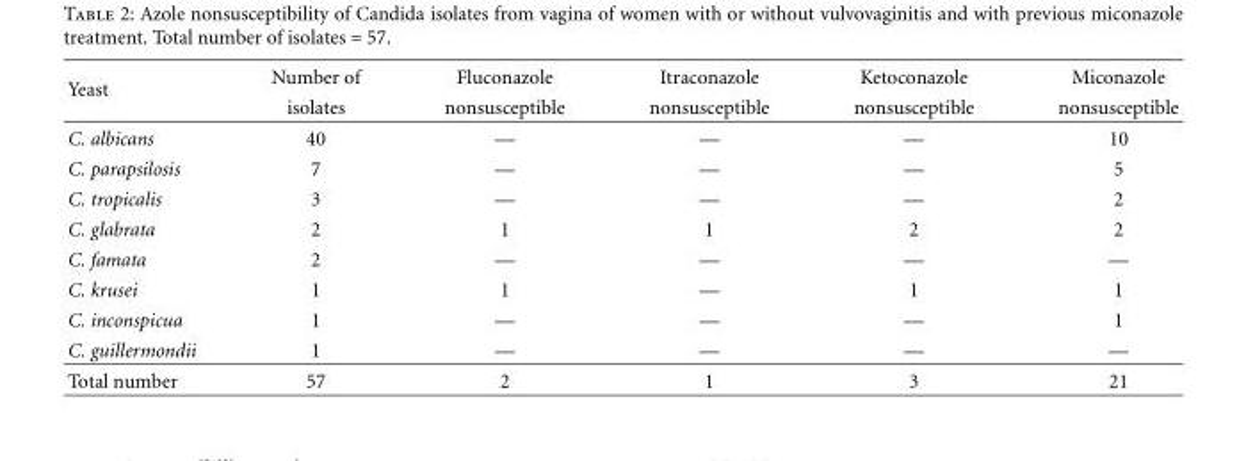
<table><thead><tr><td rowspan="2">Yeast</td><td rowspan="2">Number of isolates</td><td rowspan="2">Fluconazole nonsusceptible</td><td rowspan="2">Itraconazole nonsusceptible</td><td rowspan="2">Ketoconazole nonsusceptible</td><td rowspan="2">Miconazole nonsusceptible</td></tr><tr></tr></thead><tbody><tr><td>C. albicans</td><td>40</td><td>—</td><td>—</td><td>—</td><td>10</td></tr><tr><td>C. parapsilosis</td><td>7</td><td>—</td><td>—</td><td>—</td><td>5</td></tr><tr><td>C. tropicalis</td><td>3</td><td>—</td><td>—</td><td>—</td><td>2</td></tr><tr><td>C. glabrata</td><td>2</td><td>1</td><td>1</td><td>2</td><td>2</td></tr><tr><td>C. famata</td><td>2</td><td>—</td><td>—</td><td>—</td><td>—</td></tr><tr><td>C. krusei</td><td>1</td><td>1</td><td>—</td><td>1</td><td>1</td></tr><tr><td>C. inconspicua</td><td>1</td><td>—</td><td>—</td><td>—</td><td>1</td></tr><tr><td>C. guillermondii</td><td>1</td><td>—</td><td>—</td><td>—</td><td>—</td></tr><tr><td>Total number</td><td>57</td><td>2</td><td>1</td><td>3</td><td>21</td></tr></tbody></table>